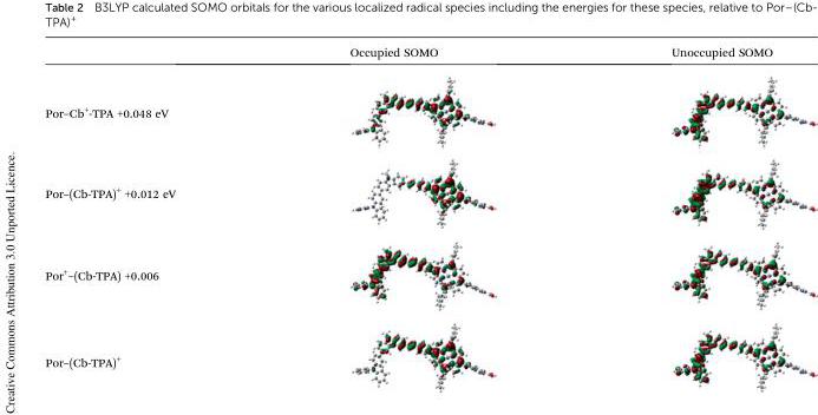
<table><thead><tr><td></td><td>Occupied SOMO</td><td>Unoccupied SOMO</td></tr></thead><tbody><tr><td colspan="3">Por–Cb<sup>+</sup>-TPA +0.048 eV</td></tr><tr><td colspan="3">Por–(Cb-TPA)<sup>+</sup> +0.012 eV</td></tr><tr><td colspan="3">Por<sup>+</sup>–(Cb-TPA) +0.006</td></tr><tr><td>Por–(Cb-TPA)<sup>+</sup></td><td></td><td></td></tr></tbody></table>